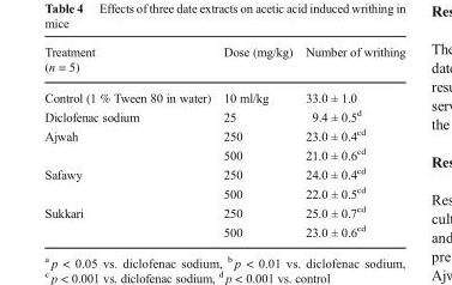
<table><thead><tr><td>Treatment (n = 5)</td><td>Dose (mg/kg)</td><td>Number of writhing</td></tr></thead><tbody><tr><td>Control (1 % Tween 80 in water)</td><td>10 ml/kg</td><td>33.0 ± 1.0</td></tr><tr><td>Diclofenac sodium</td><td>25</td><td>9.4 ± 0.5<sup>d</sup></td></tr><tr><td rowspan="2">Ajwah</td><td>250</td><td>23.0 ± 0.4<sup>cd</sup></td></tr><tr><td>500</td><td>21.0 ± 0.6<sup>cd</sup></td></tr><tr><td rowspan="2">Safawy</td><td>250</td><td>24.0 ± 0.4<sup>cd</sup></td></tr><tr><td>500</td><td>22.0 ± 0.5<sup>cd</sup></td></tr><tr><td rowspan="2">Sukkari</td><td>250</td><td>25.0 ± 0.7<sup>cd</sup></td></tr><tr><td>500</td><td>23.0 ± 0.6<sup>cd</sup></td></tr></tbody></table>